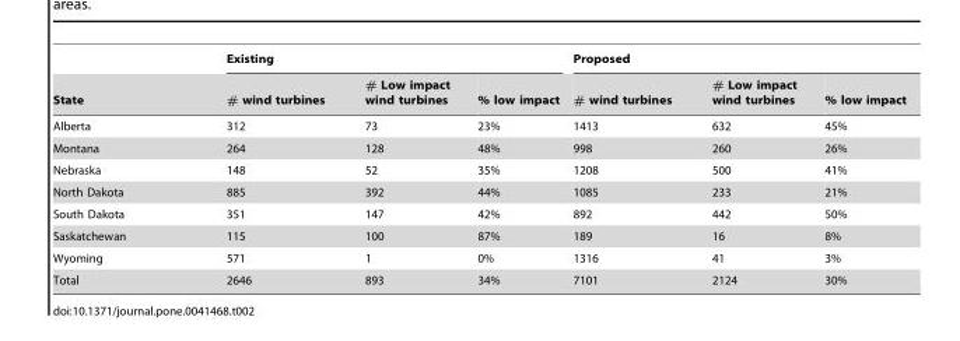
<table><thead><tr><td rowspan="2">State</td><td colspan="3">Existing</td><td colspan="3">Proposed</td></tr><tr><td># wind turbines</td><td># Low impact wind turbines</td><td>% low impact</td><td># wind turbines</td><td># Low impact wind turbines</td><td>% low impact</td></tr></thead><tbody><tr><td>Alberta</td><td>312</td><td>73</td><td>23%</td><td>1413</td><td>632</td><td>45%</td></tr><tr><td>Montana</td><td>264</td><td>128</td><td>48%</td><td>998</td><td>260</td><td>26%</td></tr><tr><td>Nebraska</td><td>148</td><td>52</td><td>35%</td><td>1208</td><td>500</td><td>41%</td></tr><tr><td>North Dakota</td><td>885</td><td>392</td><td>44%</td><td>1085</td><td>233</td><td>21%</td></tr><tr><td>South Dakota</td><td>351</td><td>147</td><td>42%</td><td>892</td><td>442</td><td>50%</td></tr><tr><td>Saskatchewan</td><td>115</td><td>100</td><td>87%</td><td>189</td><td>16</td><td>8%</td></tr><tr><td>Wyoming</td><td>571</td><td>1</td><td>0%</td><td>1316</td><td>41</td><td>3%</td></tr><tr><td>Total</td><td>2646</td><td>893</td><td>34%</td><td>7101</td><td>2124</td><td>30%</td></tr></tbody></table>